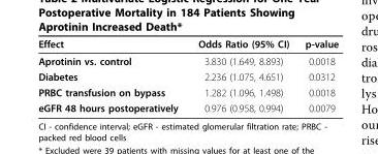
<table><thead><tr><td>Effect</td><td>Odds Ratio (95% CI)</td><td>p-value</td></tr></thead><tbody><tr><td>Aprotinin vs. control</td><td>3.830 (1.649, 8.893)</td><td>0.0018</td></tr><tr><td>Diabetes</td><td>2.236 (1.075, 4.651)</td><td>0.0312</td></tr><tr><td>PRBC transfusion on bypass</td><td>1.282 (1.096, 1.498)</td><td>0.0018</td></tr><tr><td>eGFR 48 hours postoperatively</td><td>0.976 (0.958, 0.994)</td><td>0.0079</td></tr></tbody></table>